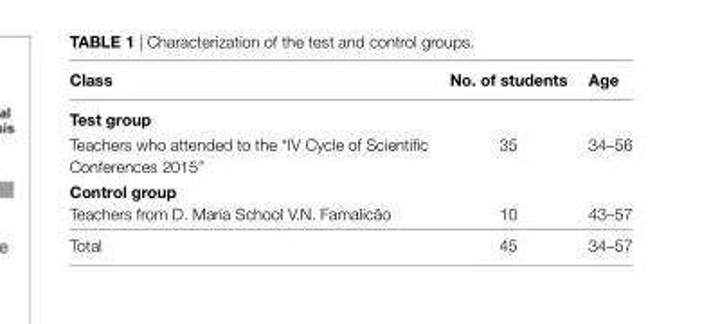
<table><thead><tr><td>class</td><td>No. of students</td><td>Age</td></tr></thead><tbody><tr><td colspan="3">test group</td></tr><tr><td>Teachers who attended to the “IV Cycle of Scientific Conferences 2015”</td><td>35</td><td>34–56</td></tr><tr><td colspan="3">control group</td></tr><tr><td>Teachers from D. Maria School V.N. Famalicão</td><td>10</td><td>43–57</td></tr><tr><td>Total</td><td>45</td><td>34–57</td></tr></tbody></table>